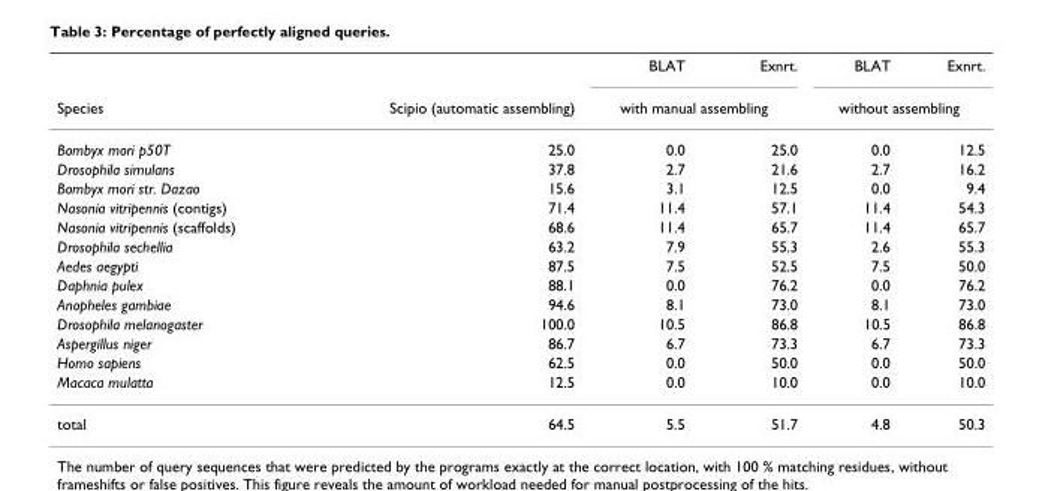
<table><thead><tr><td rowspan="2">Species</td><td rowspan="2">Scipio (automatic assembling)</td><td>BLAT</td><td>Exnrt.</td><td>BLAT</td><td>Exnrt.</td></tr><tr><td colspan="2">with manual assembling</td><td colspan="2">without assembling</td></tr></thead><tbody><tr><td>Bombyx mori p50T</td><td>25.0</td><td>0.0</td><td>25.0</td><td>0.0</td><td>12.5</td></tr><tr><td>Drosophila simulans</td><td>37.8</td><td>2.7</td><td>21.6</td><td>2.7</td><td>16.2</td></tr><tr><td>Bombyx mori str. Dazao</td><td>15.6</td><td>3.1</td><td>12.5</td><td>0.0</td><td>9.4</td></tr><tr><td>Nasonia vitripennis (contigs)</td><td>71.4</td><td>11.4</td><td>57.1</td><td>11.4</td><td>54.3</td></tr><tr><td>Nasonia vitripennis (scaffolds)</td><td>68.6</td><td>11.4</td><td>65.7</td><td>11.4</td><td>65.7</td></tr><tr><td>Drosophila sechellia</td><td>63.2</td><td>7.9</td><td>55.3</td><td>2.6</td><td>55.3</td></tr><tr><td>Aedes aegypti</td><td>87.5</td><td>7.5</td><td>52.5</td><td>7.5</td><td>50.0</td></tr><tr><td>Daphnia pulex</td><td>88.1</td><td>0.0</td><td>76.2</td><td>0.0</td><td>76.2</td></tr><tr><td>Anopheles gambiae</td><td>94.6</td><td>8.1</td><td>73.0</td><td>8.1</td><td>73.0</td></tr><tr><td>Drosophila melanogaster</td><td>100.0</td><td>10.5</td><td>86.8</td><td>10.5</td><td>86.8</td></tr><tr><td>Aspergillus niger</td><td>86.7</td><td>6.7</td><td>73.3</td><td>6.7</td><td>73.3</td></tr><tr><td>Homo sapiens</td><td>62.5</td><td>0.0</td><td>50.0</td><td>0.0</td><td>50.0</td></tr><tr><td>Macaca mulatta</td><td>12.5</td><td>0.0</td><td>10.0</td><td>0.0</td><td>10.0</td></tr><tr><td>total</td><td>64.5</td><td>5.5</td><td>51.7</td><td>4.8</td><td>50.3</td></tr></tbody></table>